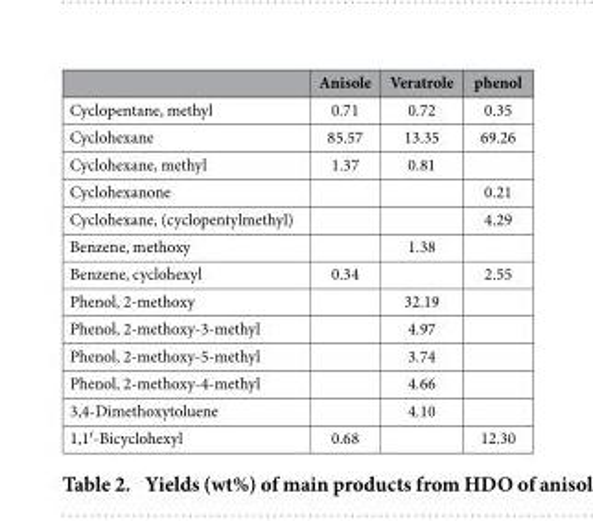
<table><thead><tr><td></td><td>Anisole</td><td>Veratrole</td><td>phenol</td></tr></thead><tbody><tr><td>Cyclopentane, methyl</td><td>0.71</td><td>0.72</td><td>0.35</td></tr><tr><td>Cyclohexane</td><td>85.57</td><td>13.35</td><td>69.26</td></tr><tr><td>Cyclohexane, methyl</td><td>1.37</td><td>0.81</td><td></td></tr><tr><td>Cyclohexanone</td><td></td><td></td><td>0.21</td></tr><tr><td>Cyclohexane, (cyclopentylmethyl)</td><td></td><td></td><td>4.29</td></tr><tr><td>Benzene, methoxy</td><td></td><td>1.38</td><td></td></tr><tr><td>Benzene, cyclohexyl</td><td>0.34</td><td></td><td>2.55</td></tr><tr><td>Phenol, 2-methoxy</td><td></td><td>32.19</td><td></td></tr><tr><td>Phenol, 2-methoxy-3-methyl</td><td></td><td>4.97</td><td></td></tr><tr><td>Phenol, 2-methoxy-5-methyl</td><td></td><td>3.74</td><td></td></tr><tr><td>Phenol, 2-methoxy-4-methyl</td><td></td><td>4.66</td><td></td></tr><tr><td>3,4-Dimethoxytoluene</td><td></td><td>4.10</td><td></td></tr><tr><td>1,1′ -Bicyclohexyl</td><td>0.68</td><td></td><td>12.30</td></tr></tbody></table>